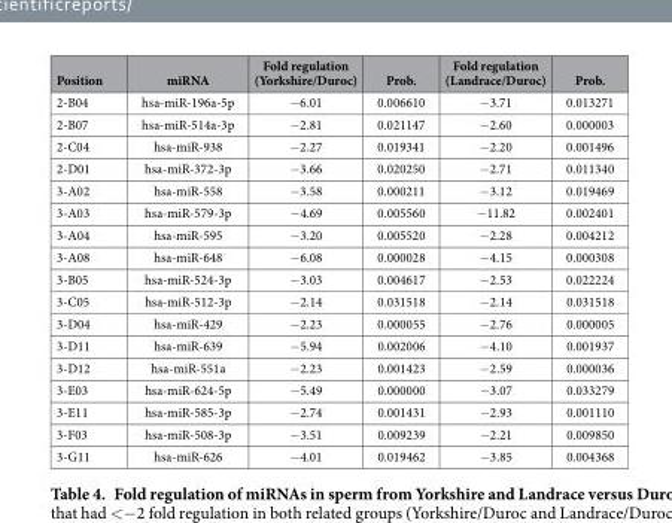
<table><thead><tr><td>Position</td><td>miRNA</td><td>Fold regulation (Yorkshire/Duroc)</td><td>Prob.</td><td>Fold regulation (Landrace/Duroc)</td><td>Prob.</td></tr></thead><tbody><tr><td>2-B04</td><td>hsa-miR-196a-5p</td><td>− 6.01</td><td>0.006610</td><td>− 3.71</td><td>0.013271</td></tr><tr><td>2-B07</td><td>hsa-miR-514a-3p</td><td>− 2.81</td><td>0.021147</td><td>− 2.60</td><td>0.000003</td></tr><tr><td>2-C04</td><td>hsa-miR-938</td><td>− 2.27</td><td>0.019341</td><td>− 2.20</td><td>0.001496</td></tr><tr><td>2-D01</td><td>hsa-miR-372-3p</td><td>− 3.66</td><td>0.020250</td><td>− 2.71</td><td>0.011340</td></tr><tr><td>3-A02</td><td>hsa-miR-558</td><td>− 3.58</td><td>0.000211</td><td>− 3.12</td><td>0.019469</td></tr><tr><td>3-A03</td><td>hsa-miR-579-3p</td><td>− 4.69</td><td>0.005560</td><td>− 11.82</td><td>0.002401</td></tr><tr><td>3-A04</td><td>hsa-miR-595</td><td>− 3.20</td><td>0.005520</td><td>− 2.28</td><td>0.004212</td></tr><tr><td>3-A08</td><td>hsa-miR-648</td><td>− 6.08</td><td>0.000028</td><td>− 4.15</td><td>0.000308</td></tr><tr><td>3-B05</td><td>hsa-miR-524-3p</td><td>− 3.03</td><td>0.004617</td><td>− 2.53</td><td>0.022224</td></tr><tr><td>3-C05</td><td>hsa-miR-512-3p</td><td>− 2.14</td><td>0.031518</td><td>− 2.14</td><td>0.031518</td></tr><tr><td>3-D04</td><td>hsa-miR-429</td><td>− 2.23</td><td>0.000055</td><td>− 2.76</td><td>0.000005</td></tr><tr><td>3-D11</td><td>hsa-miR-639</td><td>− 5.94</td><td>0.002006</td><td>− 4.10</td><td>0.001937</td></tr><tr><td>3-D12</td><td>hsa-miR-551a</td><td>− 2.23</td><td>0.001423</td><td>− 2.59</td><td>0.000036</td></tr><tr><td>3-E03</td><td>hsa-miR-624-5p</td><td>− 5.49</td><td>0.000000</td><td>− 3.07</td><td>0.033279</td></tr><tr><td>3-E11</td><td>hsa-miR-585-3p</td><td>− 2.74</td><td>0.001431</td><td>− 2.93</td><td>0.001110</td></tr><tr><td>3-F03</td><td>hsa-miR-508-3p</td><td>− 3.51</td><td>0.009239</td><td>− 2.21</td><td>0.009850</td></tr><tr><td>3-G11</td><td>hsa-miR-626</td><td>− 4.01</td><td>0.019462</td><td>− 3.85</td><td>0.004368</td></tr></tbody></table>